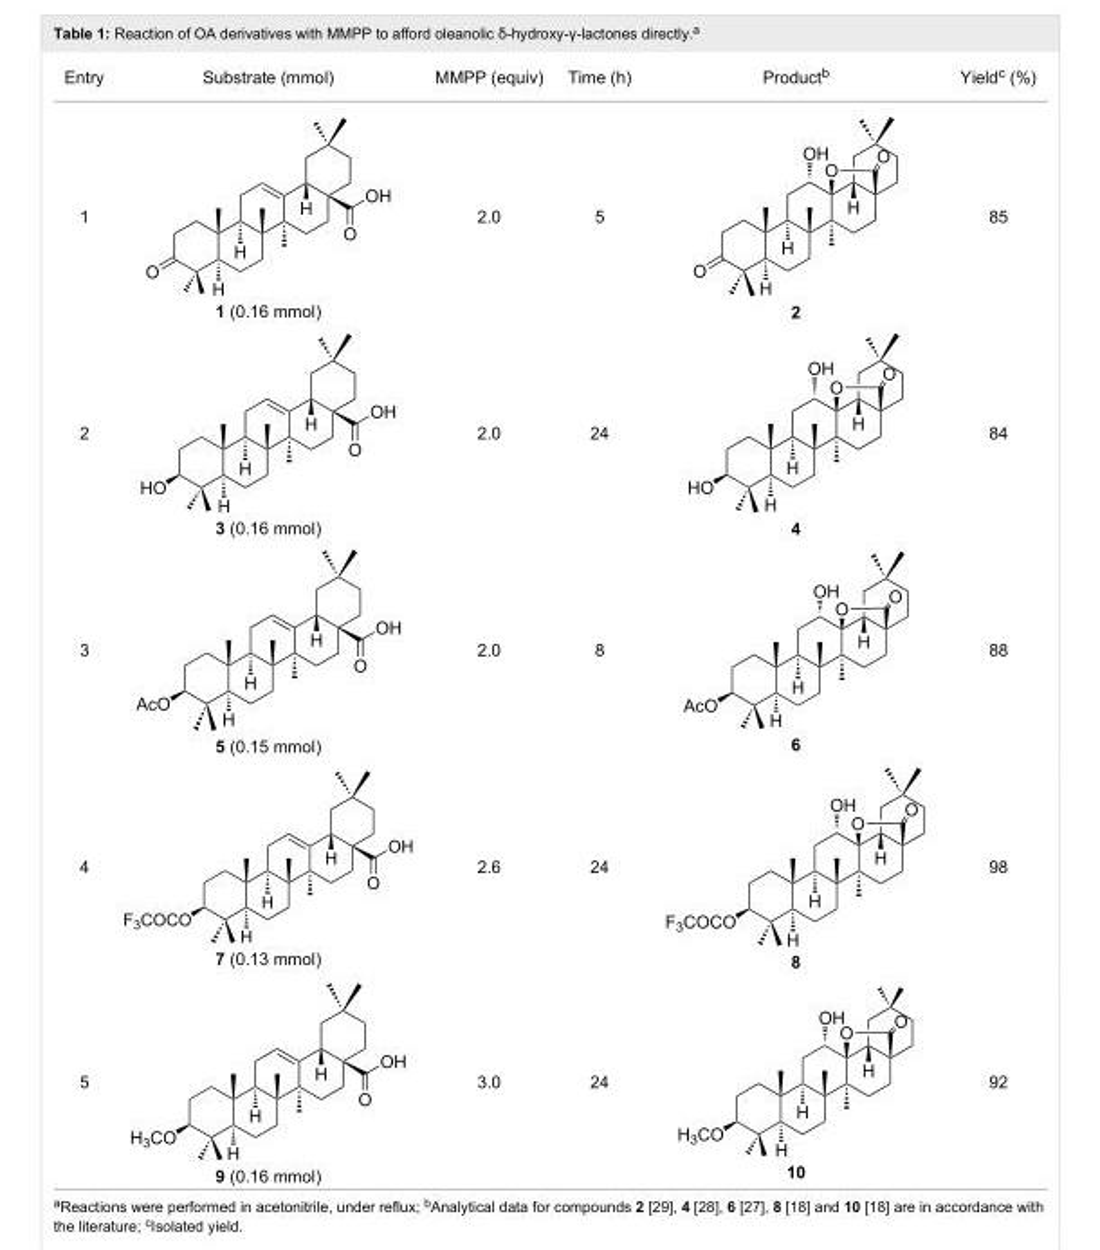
<table><tbody><tr><td>Entry</td><td>Substrate (mmol)</td><td>MMPP (equiv)</td><td>Time (h)</td><td>Product<sup>b</sup></td><td>Yield<sup>c</sup> (%)</td></tr><tr><td>1</td><td>1 (0.16 mmol)</td><td>2.0</td><td>5</td><td>2</td><td>85</td></tr><tr><td>2</td><td>3 (0.16 mmol)</td><td>2.0</td><td>24</td><td>4</td><td>84</td></tr><tr><td>3</td><td>5 (0.15 mmol)</td><td>2.0</td><td>8</td><td>6</td><td>88</td></tr><tr><td>4</td><td>7 (0.13 mmol)</td><td>2.6</td><td>24</td><td>8</td><td>98</td></tr><tr><td>5</td><td>9 (0.16 mmol)</td><td>3.0</td><td>24</td><td>10</td><td>92</td></tr></tbody></table>